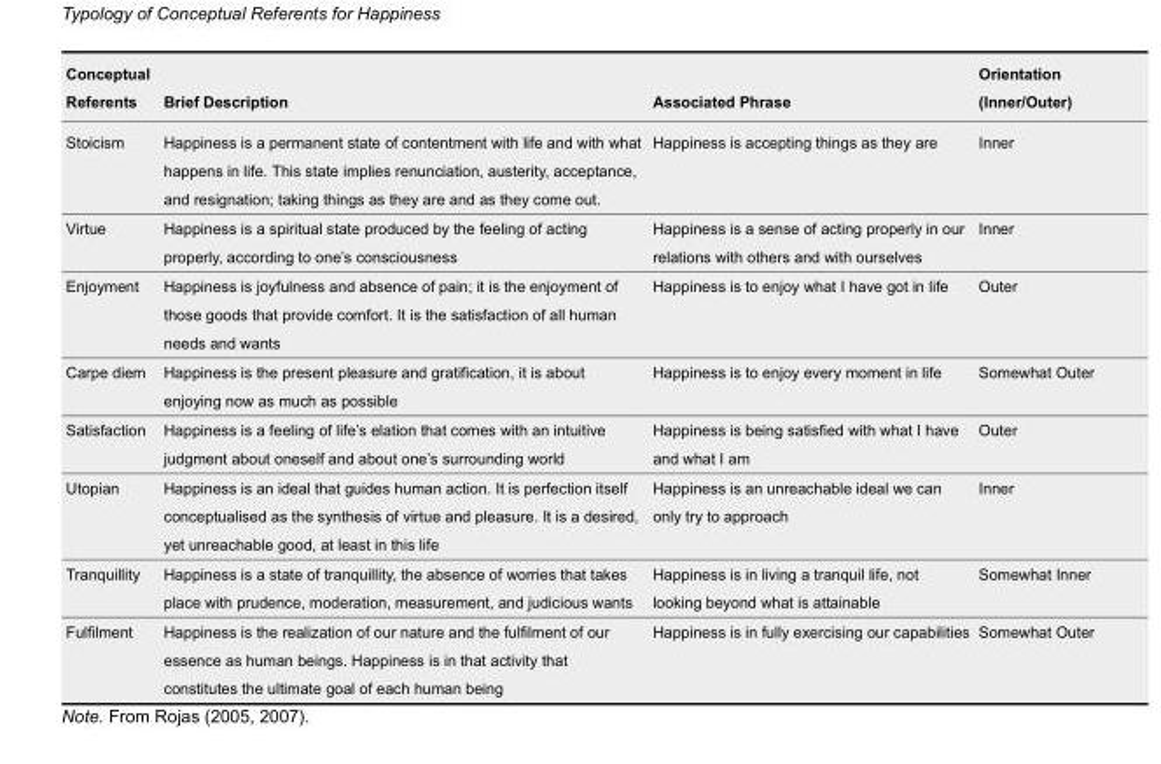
<table><thead><tr><td>Conceptual Referents</td><td>Brief Description</td><td>Associated Phrase</td><td>Orientation (Inner/Outer)</td></tr></thead><tbody><tr><td>Stoicism</td><td>Happiness is a permanent state of contentment with life and with what happens in life. This state implies renunciation, austerity, acceptance, and resignation; taking things as they are and as they come out.</td><td>Happiness is accepting things as they are</td><td>Inner</td></tr><tr><td>Virtue</td><td>Happiness is a spiritual state produced by the feeling of acting properly, according to one’s consciousness</td><td>Happiness is a sense of acting properly in our relations with others and with ourselves</td><td>Inner</td></tr><tr><td>Enjoyment</td><td>Happiness is joyfulness and absence of pain; it is the enjoyment of those goods that provide comfort. It is the satisfaction of all human needs and wants</td><td>Happiness is to enjoy what I have got in life</td><td>Outer</td></tr><tr><td>Carpe diem</td><td>Happiness is the present pleasure and gratification, it is about enjoying now as much as possible</td><td>Happiness is to enjoy every moment in life</td><td>Somewhat Outer</td></tr><tr><td>Satisfaction</td><td>Happiness is a feeling of life’s elation that comes with an intuitive judgment about oneself and about one’s surrounding world</td><td>Happiness is being satisfied with what I have and what I am</td><td>Outer</td></tr><tr><td>Utopian</td><td>Happiness is an ideal that guides human action. It is perfection itself conceptualised as the synthesis of virtue and pleasure. It is a desired, yet unreachable good, at least in this life</td><td>Happiness is an unreachable ideal we can only try to approach</td><td>Inner</td></tr><tr><td>Tranquillity</td><td>Happiness is a state of tranquillity, the absence of worries that takes place with prudence, moderation, measurement, and judicious wants</td><td>Happiness is in living a tranquil life, not looking beyond what is attainable</td><td>Somewhat Inner</td></tr><tr><td>Fulfilment</td><td>Happiness is the realization of our nature and the fulfilment of our essence as human beings. Happiness is in that activity that constitutes the ultimate goal of each human being</td><td>Happiness is in fully exercising our capabilities</td><td>Somewhat Outer</td></tr></tbody></table>